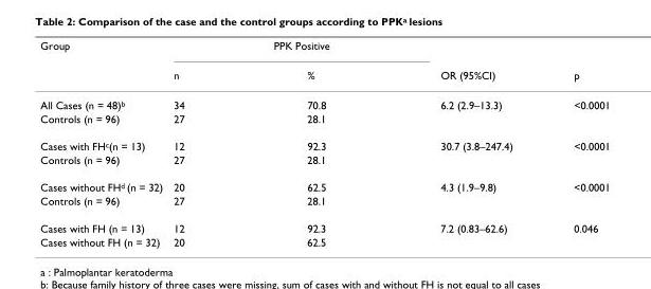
<table><thead><tr><td rowspan="2">Group</td><td colspan="2">PPK Positive</td><td rowspan="2">OR (95%CI)</td><td rowspan="2">p</td></tr><tr><td>n</td><td>%</td></tr></thead><tbody><tr><td>All Cases (n = 48)b</td><td>34</td><td>70.8</td><td>6.2 (2.9–13.3)</td><td>&lt;0.0001</td></tr><tr><td>Controls (n = 96)</td><td>27</td><td>28.1</td><td></td><td></td></tr><tr><td>Cases with FHc(n = 13)</td><td>12</td><td>92.3</td><td>30.7 (3.8–247.4)</td><td>&lt;0.0001</td></tr><tr><td>Controls (n = 96)</td><td>27</td><td>28.1</td><td></td><td></td></tr><tr><td>Cases without FHd (n = 32)</td><td>20</td><td>62.5</td><td>4.3 (1.9–9.8)</td><td>&lt;0.0001</td></tr><tr><td>Controls (n = 96)</td><td>27</td><td>28.1</td><td></td><td></td></tr><tr><td>Cases with FH (n = 13)</td><td>12</td><td>92.3</td><td>7.2 (0.83–62.6)</td><td>0.046</td></tr><tr><td>Cases without FH (n = 32)</td><td>20</td><td>62.5</td><td></td><td></td></tr></tbody></table>